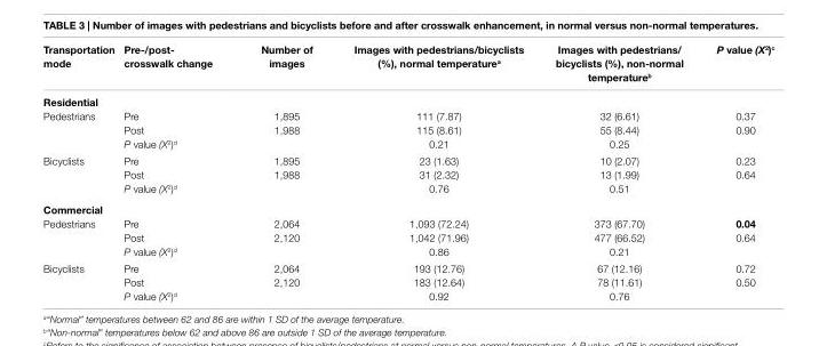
<table><thead><tr><td>Transportation mode</td><td>Pre-/post- crosswalk change</td><td>number of images</td><td>images with pedestrians/bicyclists (%), normal temperature<sup>a</sup></td><td>images with pedestrians/ bicyclists (%), non-normal temperature<sup>b</sup></td><td>P value (X<sup>2</sup>)<sup>c</sup></td></tr></thead><tbody><tr><td colspan="6">residential</td></tr><tr><td rowspan="3">Pedestrians</td><td>Pre</td><td>1,895</td><td>111 (7.87)</td><td>32 (6.61)</td><td>0.37</td></tr><tr><td>Post</td><td>1,988</td><td>115 (8.61)</td><td>55 (8.44)</td><td>0.90</td></tr><tr><td>P value (X<sup>2</sup>)<sup>d</sup></td><td></td><td>0.21</td><td>0.25</td><td></td></tr><tr><td rowspan="3">Bicyclists</td><td>Pre</td><td>1,895</td><td>23 (1.63)</td><td>10 (2.07)</td><td>0.23</td></tr><tr><td>Post</td><td>1,988</td><td>31 (2.32)</td><td>13 (1.99)</td><td>0.64</td></tr><tr><td>P value (X<sup>2</sup>)<sup>d</sup></td><td></td><td>0.76</td><td>0.51</td><td></td></tr><tr><td colspan="6">commercial</td></tr><tr><td rowspan="3">Pedestrians</td><td>Pre</td><td>2,064</td><td>1,093 (72.24)</td><td>373 (67.70)</td><td>0.04</td></tr><tr><td>Post</td><td>2,120</td><td>1,042 (71.96)</td><td>477 (66.52)</td><td>0.64</td></tr><tr><td>P value (X<sup>2</sup>)<sup>d</sup></td><td></td><td>0.86</td><td>0.21</td><td></td></tr><tr><td rowspan="3">Bicyclists</td><td>Pre</td><td>2,064</td><td>193 (12.76)</td><td>67 (12.16)</td><td>0.72</td></tr><tr><td>Post</td><td>2,120</td><td>183 (12.64)</td><td>78 (11.61)</td><td>0.50</td></tr><tr><td>P value (X<sup>2</sup>)<sup>d</sup></td><td></td><td>0.92</td><td>0.76</td><td></td></tr></tbody></table>